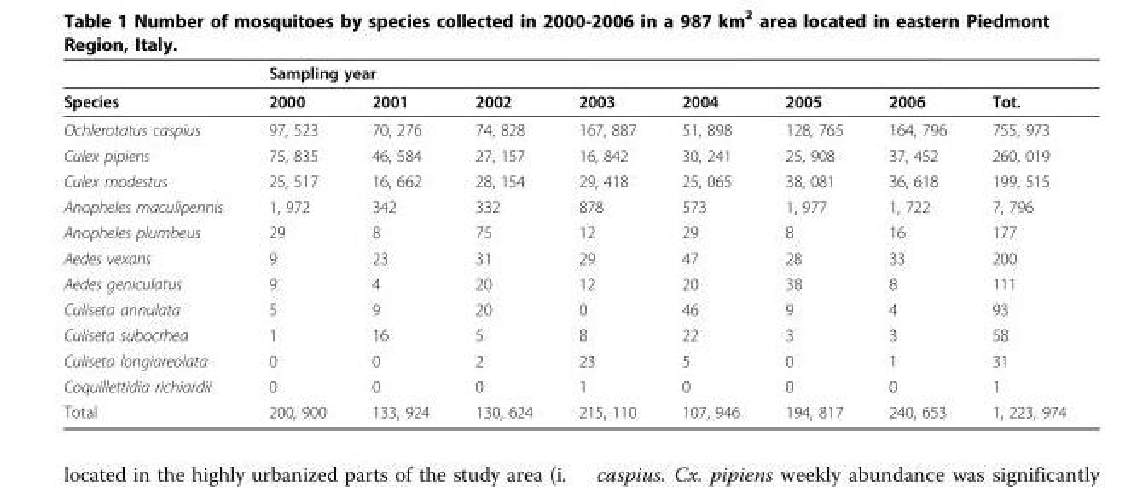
<table><thead><tr><td rowspan="2">Species</td><td colspan="7">Sampling year</td><td rowspan="2">Tot.</td></tr><tr><td>2000</td><td>2001</td><td>2002</td><td>2003</td><td>2004</td><td>2005</td><td>2006</td></tr></thead><tbody><tr><td>Ochlerotatus caspius</td><td>97, 523</td><td>70, 276</td><td>74, 828</td><td>167, 887</td><td>51, 898</td><td>128, 765</td><td>164, 796</td><td>755, 973</td></tr><tr><td>Culex pipiens</td><td>75, 835</td><td>46, 584</td><td>27, 157</td><td>16, 842</td><td>30, 241</td><td>25, 908</td><td>37, 452</td><td>260, 019</td></tr><tr><td>Culex modestus</td><td>25, 517</td><td>16, 662</td><td>28, 154</td><td>29, 418</td><td>25, 065</td><td>38, 081</td><td>36, 618</td><td>199, 515</td></tr><tr><td>Anopheles maculipennis</td><td>1, 972</td><td>342</td><td>332</td><td>878</td><td>573</td><td>1, 977</td><td>1, 722</td><td>7, 796</td></tr><tr><td>Anopheles plumbeus</td><td>29</td><td>8</td><td>75</td><td>12</td><td>29</td><td>8</td><td>16</td><td>177</td></tr><tr><td>Aedes vexans</td><td>9</td><td>23</td><td>31</td><td>29</td><td>47</td><td>28</td><td>33</td><td>200</td></tr><tr><td>Aedes geniculatus</td><td>9</td><td>4</td><td>20</td><td>12</td><td>20</td><td>38</td><td>8</td><td>111</td></tr><tr><td>Culiseta annulata</td><td>5</td><td>9</td><td>20</td><td>0</td><td>46</td><td>9</td><td>4</td><td>93</td></tr><tr><td>Culiseta subocrhea</td><td>1</td><td>16</td><td>5</td><td>8</td><td>22</td><td>3</td><td>3</td><td>58</td></tr><tr><td>Culiseta longiareolata</td><td>0</td><td>0</td><td>2</td><td>23</td><td>5</td><td>0</td><td>1</td><td>31</td></tr><tr><td>Coquillettidia richiardii</td><td>0</td><td>0</td><td>0</td><td>1</td><td>0</td><td>0</td><td>0</td><td>1</td></tr><tr><td>Total</td><td>200, 900</td><td>133, 924</td><td>130, 624</td><td>215, 110</td><td>107, 946</td><td>194, 817</td><td>240, 653</td><td>1, 223, 974</td></tr></tbody></table>